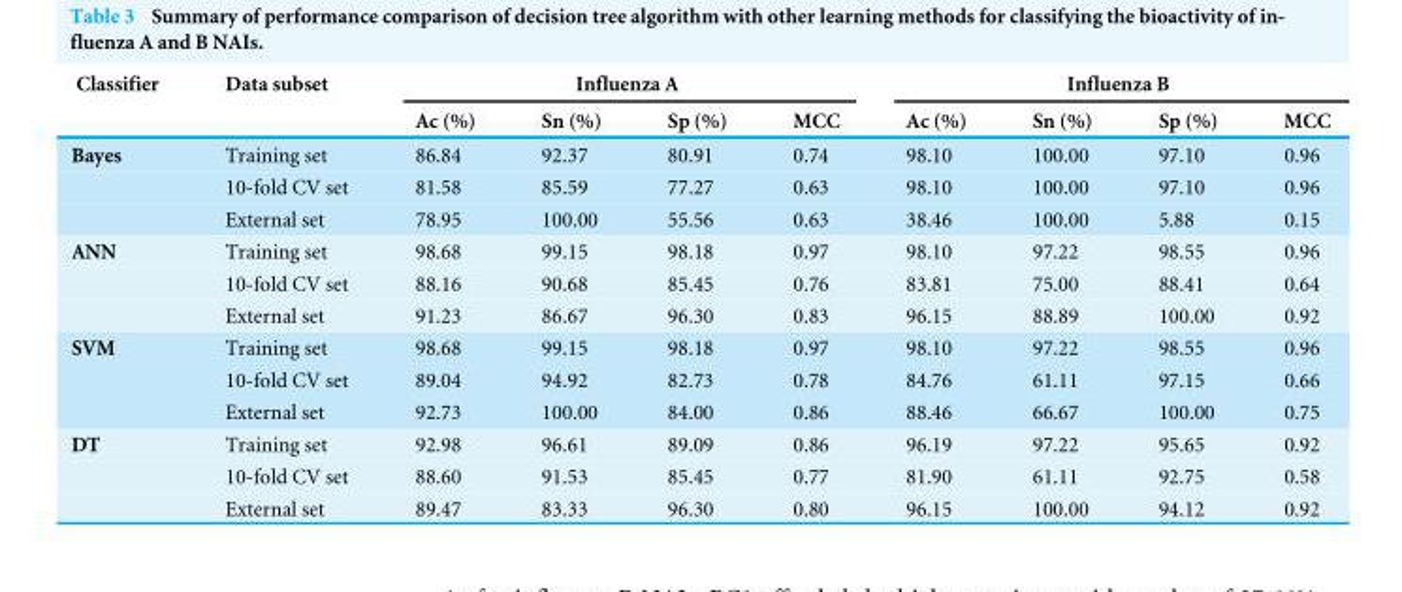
<table><thead><tr><td rowspan="2">Classifier</td><td rowspan="2">Data subset</td><td colspan="4">Influenza A</td><td colspan="4">Influenza B</td></tr><tr><td>Ac (%)</td><td>Sn (%)</td><td>Sp (%)</td><td>MCC</td><td>Ac (%)</td><td>Sn (%)</td><td>Sp (%)</td><td>MCC</td></tr></thead><tbody><tr><td rowspan="3">Bayes</td><td>Training set</td><td>86.84</td><td>92.37</td><td>80.91</td><td>0.74</td><td>98.10</td><td>100.00</td><td>97.10</td><td>0.96</td></tr><tr><td>10-fold CV set</td><td>81.58</td><td>85.59</td><td>77.27</td><td>0.63</td><td>98.10</td><td>100.00</td><td>97.10</td><td>0.96</td></tr><tr><td>External set</td><td>78.95</td><td>100.00</td><td>55.56</td><td>0.63</td><td>38.46</td><td>100.00</td><td>5.88</td><td>0.15</td></tr><tr><td rowspan="3">ANN</td><td>Training set</td><td>98.68</td><td>99.15</td><td>98.18</td><td>0.97</td><td>98.10</td><td>97.22</td><td>98.55</td><td>0.96</td></tr><tr><td>10-fold CV set</td><td>88.16</td><td>90.68</td><td>85.45</td><td>0.76</td><td>83.81</td><td>75.00</td><td>88.41</td><td>0.64</td></tr><tr><td>External set</td><td>91.23</td><td>86.67</td><td>96.30</td><td>0.83</td><td>96.15</td><td>88.89</td><td>100.00</td><td>0.92</td></tr><tr><td rowspan="3">SVM</td><td>Training set</td><td>98.68</td><td>99.15</td><td>98.18</td><td>0.97</td><td>98.10</td><td>97.22</td><td>98.55</td><td>0.96</td></tr><tr><td>10-fold CV set</td><td>89.04</td><td>94.92</td><td>82.73</td><td>0.78</td><td>84.76</td><td>61.11</td><td>97.15</td><td>0.66</td></tr><tr><td>External set</td><td>92.73</td><td>100.00</td><td>84.00</td><td>0.86</td><td>88.46</td><td>66.67</td><td>100.00</td><td>0.75</td></tr><tr><td rowspan="3">DT</td><td>Training set</td><td>92.98</td><td>96.61</td><td>89.09</td><td>0.86</td><td>96.19</td><td>97.22</td><td>95.65</td><td>0.92</td></tr><tr><td>10-fold CV set</td><td>88.60</td><td>91.53</td><td>85.45</td><td>0.77</td><td>81.90</td><td>61.11</td><td>92.75</td><td>0.58</td></tr><tr><td>External set</td><td>89.47</td><td>83.33</td><td>96.30</td><td>0.80</td><td>96.15</td><td>100.00</td><td>94.12</td><td>0.92</td></tr></tbody></table>